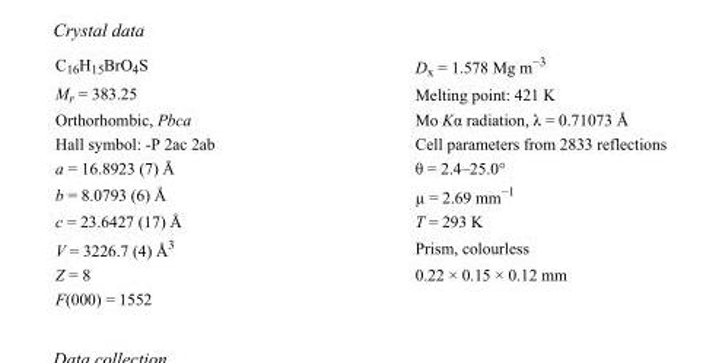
<table><tbody><tr><td>C<sub>16</sub>H<sub>15</sub>BrO<sub>4</sub>S</td><td>D<sub>x</sub> = 1.578 Mg m<sup>−3</sup></td></tr><tr><td>M<sub>r</sub> = 383.25</td><td>Melting point: 421 K</td></tr><tr><td>Orthorhombic, Pbca</td><td>Mo Kα radiation, λ = 0.71073 Å</td></tr><tr><td>Hall symbol: -P 2ac 2ab</td><td>Cell parameters from 2833 reflections</td></tr><tr><td>a = 16.8923 (7) Å</td><td>θ = 2.4–25.0°</td></tr><tr><td>b = 8.0793 (6) Å</td><td>µ = 2.69 mm<sup>−1</sup></td></tr><tr><td>c = 23.6427 (17) Å</td><td>T = 293 K</td></tr><tr><td>V = 3226.7 (4) Å<sup>3</sup></td><td>Prism, colourless</td></tr><tr><td>Z = 8</td><td>0.22 × 0.15 × 0.12 mm</td></tr><tr><td>F(000) = 1552</td><td></td></tr></tbody></table>